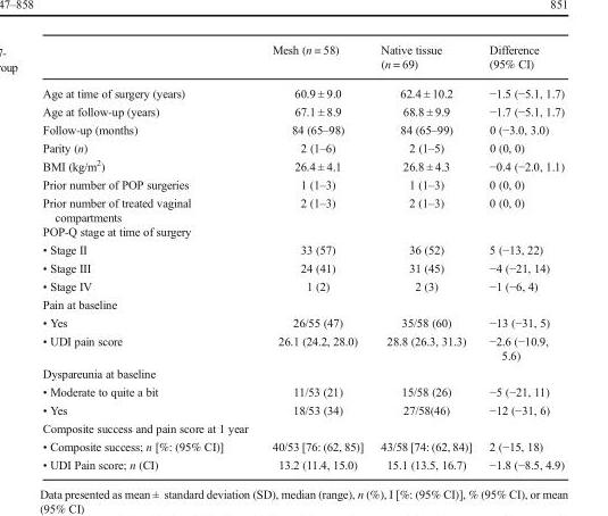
<table><thead><tr><td></td><td>Mesh (n = 58)</td><td>Native tissue (n = 69)</td><td>Difference (95% CI)</td></tr></thead><tbody><tr><td>Age at time of surgery (years)</td><td>60.9 ± 9.0</td><td>62.4 ± 10.2</td><td>−1.5 (−5.1, 1.7)</td></tr><tr><td>Age at follow-up (years)</td><td>67.1 ± 8.9</td><td>68.8 ± 9.9</td><td>−1.7 (−5.1, 1.7)</td></tr><tr><td>Follow-up (months)</td><td>84 (65–98)</td><td>84 (65–99)</td><td>0 (−3.0, 3.0)</td></tr><tr><td>Parity (n)</td><td>2 (1–6)</td><td>2 (1–5)</td><td>0 (0, 0)</td></tr><tr><td>BMI (kg/m<sup>2</sup>)</td><td>26.4 ± 4.1</td><td>26.8 ± 4.3</td><td>−0.4 (−2.0, 1.1)</td></tr><tr><td>Prior number of POP surgeries</td><td>1 (1–3)</td><td>1 (1–3)</td><td>0 (0, 0)</td></tr><tr><td>Prior number of treated vaginal compartments</td><td>2 (1–3)</td><td>2 (1–3)</td><td>0 (0, 0)</td></tr><tr><td colspan="4">POP-Q stage at time of surgery</td></tr><tr><td>• Stage II</td><td>33 (57)</td><td>36 (52)</td><td>5 (−13, 22)</td></tr><tr><td>• Stage III</td><td>24 (41)</td><td>31 (45)</td><td>−4 (−21, 14)</td></tr><tr><td>• Stage IV</td><td>1 (2)</td><td>2 (3)</td><td>−1 (−6, 4)</td></tr><tr><td colspan="4">Pain at baseline</td></tr><tr><td>• Yes</td><td>26/55 (47)</td><td>35/58 (60)</td><td>−13 (−31, 5)</td></tr><tr><td>• UDI pain score</td><td>26.1 (24.2, 28.0)</td><td>28.8 (26.3, 31.3)</td><td>−2.6 (−10.9, 5.6)</td></tr><tr><td colspan="4">Dyspareunia at baseline</td></tr><tr><td>• Moderate to quite a bit</td><td>11/53 (21)</td><td>15/58 (26)</td><td>−5 (−21, 11)</td></tr><tr><td>• Yes</td><td>18/53 (34)</td><td>27/58(46)</td><td>−12 (−31, 6)</td></tr><tr><td colspan="4">Composite success and pain score at 1 year</td></tr><tr><td>• Composite success; n [%: (95% CI)]</td><td>40/53 [76: (62, 85)]</td><td>43/58 [74: (62, 84)]</td><td>2 (−15, 18)</td></tr><tr><td>• UDI Pain score; n (CI)</td><td>13.2 (11.4, 15.0)</td><td>15.1 (13.5, 16.7)</td><td>−1.8 (−8.5, 4.9)</td></tr></tbody></table>